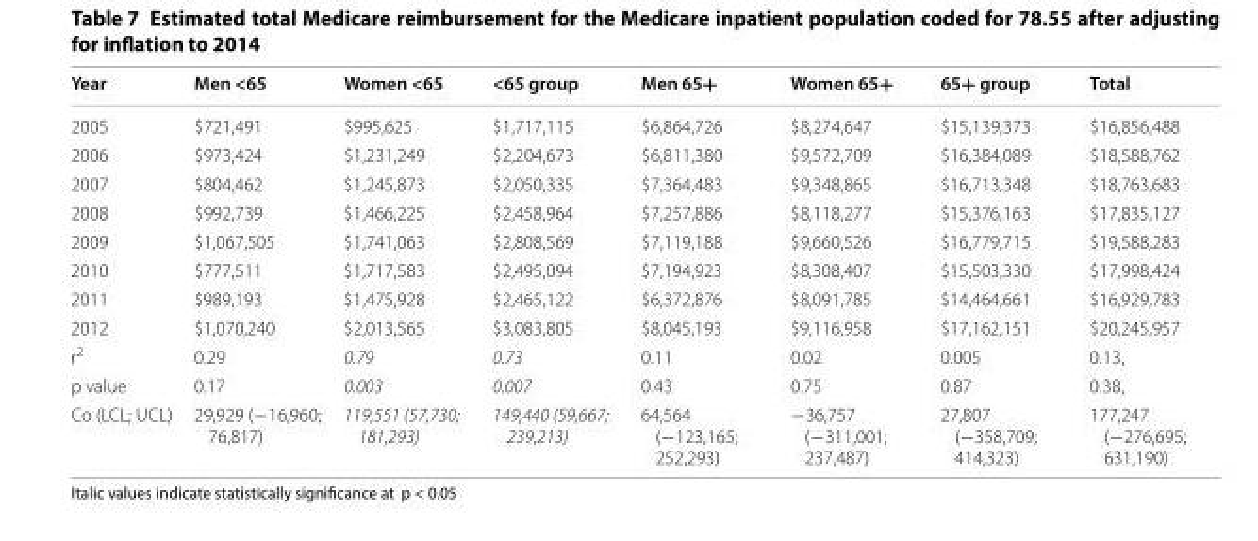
<table><thead><tr><td>Year</td><td>Men &lt;65</td><td>Women &lt;65</td><td>&lt;65 group</td><td>Men 65+</td><td>Women 65+</td><td>65+ group</td><td>Total</td></tr></thead><tbody><tr><td>2005</td><td>$721,491</td><td>$995,625</td><td>$1,717,115</td><td>$6,864,726</td><td>$8,274,647</td><td>$15,139,373</td><td>$16,856,488</td></tr><tr><td>2006</td><td>$973,424</td><td>$1,231,249</td><td>$2,204,673</td><td>$6,811,380</td><td>$9,572,709</td><td>$16,384,089</td><td>$18,588,762</td></tr><tr><td>2007</td><td>$804,462</td><td>$1,245,873</td><td>$2,050,335</td><td>$7,364,483</td><td>$9,348,865</td><td>$16,713,348</td><td>$18,763,683</td></tr><tr><td>2008</td><td>$992,739</td><td>$1,466,225</td><td>$2,458,964</td><td>$7,257,886</td><td>$8,118,277</td><td>$15,376,163</td><td>$17,835,127</td></tr><tr><td>2009</td><td>$1,067,505</td><td>$1,741,063</td><td>$2,808,569</td><td>$7,119,188</td><td>$9,660,526</td><td>$16,779,715</td><td>$19,588,283</td></tr><tr><td>2010</td><td>$777,511</td><td>$1,717,583</td><td>$2,495,094</td><td>$7,194,923</td><td>$8,308,407</td><td>$15,503,330</td><td>$17,998,424</td></tr><tr><td>2011</td><td>$989,193</td><td>$1,475,928</td><td>$2,465,122</td><td>$6,372,876</td><td>$8,091,785</td><td>$14,464,661</td><td>$16,929,783</td></tr><tr><td>2012</td><td>$1,070,240</td><td>$2,013,565</td><td>$3,083,805</td><td>$8,045,193</td><td>$9,116,958</td><td>$17,162,151</td><td>$20,245,957</td></tr><tr><td>r<sup>2</sup></td><td>0.29</td><td>0.79</td><td>0.73</td><td>0.11</td><td>0.02</td><td>0.005</td><td>0.13,</td></tr><tr><td>p value</td><td>0.17</td><td>0.003</td><td>0.007</td><td>0.43</td><td>0.75</td><td>0.87</td><td>0.38,</td></tr><tr><td>Co (LCL; UCL)</td><td>29,929 (−16,960; 76,817)</td><td>119,551 (57,730; 181,293)</td><td>149,440 (59,667; 239,213)</td><td>64,564 (−123,165; 252,293)</td><td>−36,757 (−311,001; 237,487)</td><td>27,807 (−358,709; 414,323)</td><td>177,247 (−276,695; 631,190)</td></tr></tbody></table>